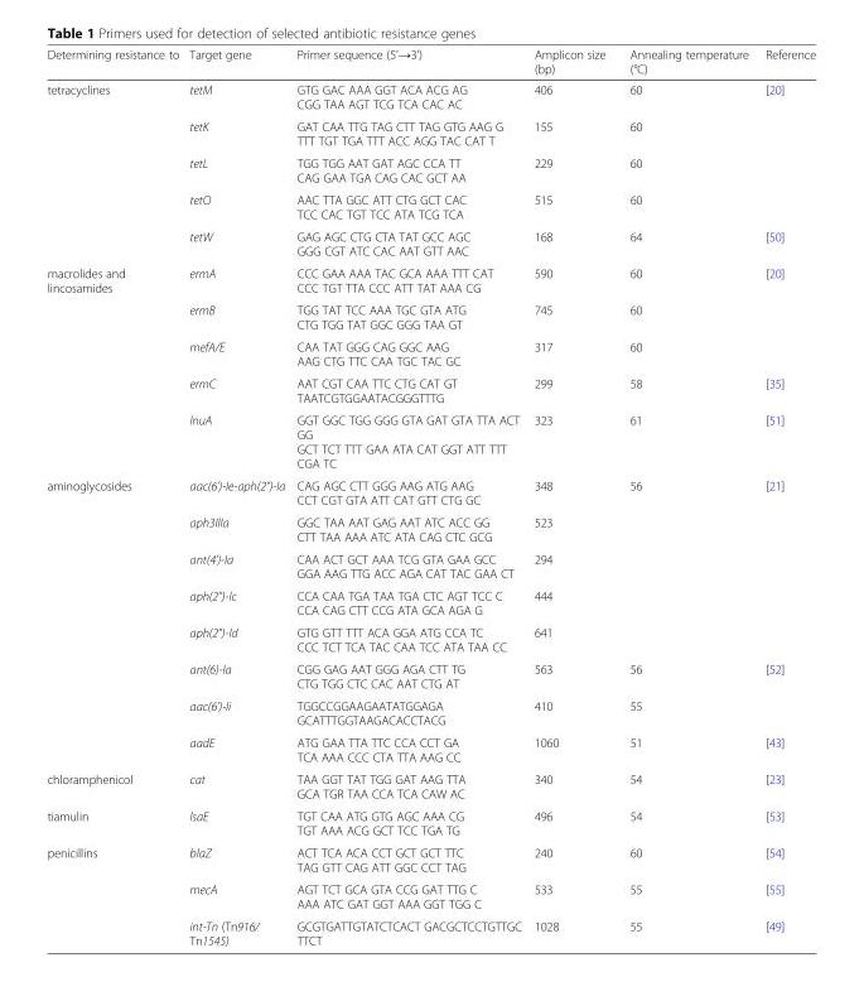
<table><thead><tr><td>Determining resistance to</td><td>Target gene</td><td>Primer sequence (5’→3’)</td><td>Amplicon size (bp)</td><td>Annealing temperature (°C)</td><td>Reference</td></tr></thead><tbody><tr><td rowspan="5">tetracyclines</td><td>tetM</td><td>GTG GAC AAA GGT ACA ACG AG CGG TAA AGT TCG TCA CAC AC</td><td>406</td><td>60</td><td rowspan="4">[20]</td></tr><tr><td>tetK</td><td>GAT CAA TTG TAG CTT TAG GTG AAG G TTT TGT TGA TTT ACC AGG TAC CAT T</td><td>155</td><td>60</td></tr><tr><td>tetL</td><td>TGG TGG AAT GAT AGC CCA TT CAG GAA TGA CAG CAC GCT AA</td><td>229</td><td>60</td></tr><tr><td>tetO</td><td>AAC TTA GGC ATT CTG GCT CAC TCC CAC TGT TCC ATA TCG TCA</td><td>515</td><td>60</td></tr><tr><td>tetW</td><td>GAG AGC CTG CTA TAT GCC AGC GGG CGT ATC CAC AAT GTT AAC</td><td>168</td><td>64</td><td>[50]</td></tr><tr><td rowspan="5">macrolides and lincosamides</td><td>ermA</td><td>CCC GAA AAA TAC GCA AAA TTT CAT CCC TGT TTA CCC ATT TAT AAA CG</td><td>590</td><td>60</td><td rowspan="3">[20]</td></tr><tr><td>ermB</td><td>TGG TAT TCC AAA TGC GTA ATG CTG TGG TAT GGC GGG TAA GT</td><td>745</td><td>60</td></tr><tr><td>mefA/E</td><td>CAA TAT GGG CAG GGC AAG AAG CTG TTC CAA TGC TAC GC</td><td>317</td><td>60</td></tr><tr><td>ermC</td><td>AAT CGT CAA TTC CTG CAT GT TAATCGTGGAATACGGGTTTG</td><td>299</td><td>58</td><td>[35]</td></tr><tr><td>lnuA</td><td>GGT GGC TGG GGG GTA GAT GTA TTA ACT GG GCT TCT TTT GAA ATA CAT GGT ATT TTT CGA TC</td><td>323</td><td>61</td><td>[51]</td></tr><tr><td rowspan="8">aminoglycosides</td><td>aac(6’)-Ie-aph(2”)-Ia</td><td>CAG AGC CTT GGG AAG ATG AAG CCT CGT GTA ATT CAT GTT CTG GC</td><td>348</td><td rowspan="5">56</td><td rowspan="5">[21]</td></tr><tr><td>aph3IIIa</td><td>GGC TAA AAT GAG AAT ATC ACC GG CTT TAA AAA ATC ATA CAG CTC GCG</td><td>523</td></tr><tr><td>ant(4’)-Ia</td><td>CAA ACT GCT AAA TCG GTA GAA GCC GGA AAG TTG ACC AGA CAT TAC GAA CT</td><td>294</td></tr><tr><td>aph(2”)-Ic</td><td>CCA CAA TGA TAA TGA CTC AGT TCC C CCA CAG CTT CCG ATA GCA AGA G</td><td>444</td></tr><tr><td>aph(2”)-Id</td><td>GTG GTT TTT ACA GGA ATG CCA TC CCC TCT TCA TAC CAA TCC ATA TAA CC</td><td>641</td></tr><tr><td>ant(6)-Ia</td><td>CGG GAG AAT GGG AGA CTT TG CTG TGG CTC CAC AAT CTG AT</td><td>563</td><td>56</td><td rowspan="2">[52]</td></tr><tr><td>aac(6’)-Ii</td><td>TGGCCGGAAGAATATGGAGA GCATTTGGTAAGACACCTACG</td><td>410</td><td>55</td></tr><tr><td>aadE</td><td>ATG GAA TTA TTC CCA CCT GA TCA AAA CCC CTA TTA AAG CC</td><td>1060</td><td>51</td><td>[43]</td></tr><tr><td>chloramphenicol</td><td>cat</td><td>TAA GGT TAT TGG GAT AAG TTA GCA TGR TAA CCA TCA CAW AC</td><td>340</td><td>54</td><td>[23]</td></tr><tr><td>tiamulin</td><td>lsaE</td><td>TGT CAA ATG GTG AGC AAA CG TGT AAA ACG GCT TCC TGA TG</td><td>496</td><td>54</td><td>[53]</td></tr><tr><td rowspan="3">penicillins</td><td>blaZ</td><td>ACT TCA ACA CCT GCT GCT TTC TAG GTT CAG ATT GGC CCT TAG</td><td>240</td><td>60</td><td>[54]</td></tr><tr><td>mecA</td><td>AGT TCT GCA GTA CCG GAT TTG C AAA ATC GAT GGT AAA GGT TGG C</td><td>533</td><td>55</td><td>[55]</td></tr><tr><td>int-Tn (Tn916/ Tn1545)</td><td>GCGTGATTGTATCTCACT GACGCTCCTGTTGC TTCT</td><td>1028</td><td>55</td><td>[49]</td></tr></tbody></table>